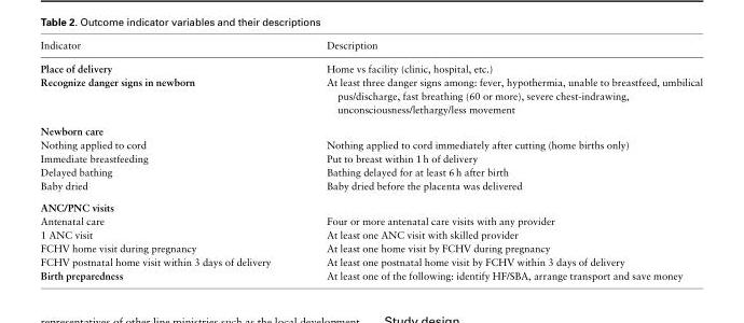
<table><thead><tr><td>Indicator</td><td>Description</td></tr></thead><tbody><tr><td>Place of delivery</td><td>Home vs facility (clinic, hospital, etc.)</td></tr><tr><td>Recognize danger signs in newborn</td><td>At least three danger signs among: fever, hypothermia, unable to breastfeed, umbilical pus/discharge, fast breathing (60 or more), severe chest-indrawing, unconsciousness/lethargy/less movement</td></tr><tr><td colspan="2">Newborn care</td></tr><tr><td>Nothing applied to cord</td><td>Nothing applied to cord immediately after cutting (home births only)</td></tr><tr><td>Immediate breastfeeding</td><td>Put to breast within 1 h of delivery</td></tr><tr><td>Delayed bathing</td><td>Bathing delayed for at least 6 h after birth</td></tr><tr><td>Baby dried</td><td>Baby dried before the placenta was delivered</td></tr><tr><td colspan="2">ANC/PNC visits</td></tr><tr><td>Antenatal care</td><td>Four or more antenatal care visits with any provider</td></tr><tr><td>1 ANC visit</td><td>At least one ANC visit with skilled provider</td></tr><tr><td>FCHV home visit during pregnancy</td><td>At least one home visit by FCHV during pregnancy</td></tr><tr><td>FCHV postnatal home visit within 3 days of delivery</td><td>At least one postnatal home visit by FCHV within 3 days of delivery</td></tr><tr><td>Birth preparedness</td><td>At least one of the following: identify HF/SBA, arrange transport and save money</td></tr></tbody></table>